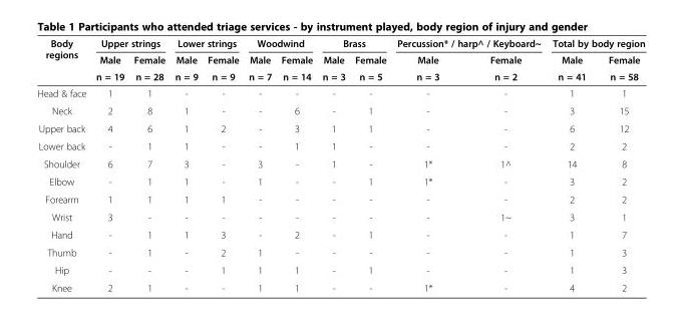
<table><thead><tr><td rowspan="3">Body regions</td><td colspan="2">Upper strings</td><td colspan="2">Lower strings</td><td colspan="2">Woodwind</td><td colspan="2">Brass</td><td colspan="2">Percussion* / harp^ / Keyboard~</td><td colspan="2">Total by body region</td></tr><tr><td rowspan="2">Male n = 19</td><td rowspan="2">Female n = 28</td><td rowspan="2">Male n = 9</td><td rowspan="2">Female n = 9</td><td rowspan="2">Male n = 7</td><td rowspan="2">Female n = 14</td><td rowspan="2">Male n = 3</td><td rowspan="2">Female n = 5</td><td rowspan="2">Male n = 3</td><td rowspan="2">Female n = 2</td><td rowspan="2">Male n = 41</td><td rowspan="2">Female n = 58</td></tr><tr></tr></thead><tbody><tr><td>Head &amp; face</td><td>1</td><td>1</td><td>-</td><td>-</td><td>-</td><td>-</td><td>-</td><td>-</td><td>-</td><td>-</td><td>1</td><td>1</td></tr><tr><td>Neck</td><td>2</td><td>8</td><td>1</td><td>-</td><td>-</td><td>6</td><td>-</td><td>1</td><td>-</td><td>-</td><td>3</td><td>15</td></tr><tr><td>Upper back</td><td>4</td><td>6</td><td>1</td><td>2</td><td>-</td><td>3</td><td>1</td><td>1</td><td>-</td><td>-</td><td>6</td><td>12</td></tr><tr><td>Lower back</td><td>-</td><td>1</td><td>1</td><td>-</td><td>-</td><td>1</td><td>1</td><td>-</td><td>-</td><td>-</td><td>2</td><td>2</td></tr><tr><td>Shoulder</td><td>6</td><td>7</td><td>3</td><td>-</td><td>3</td><td>-</td><td>1</td><td>-</td><td>1*</td><td>1^</td><td>14</td><td>8</td></tr><tr><td>Elbow</td><td>-</td><td>1</td><td>1</td><td>-</td><td>1</td><td>-</td><td>-</td><td>1</td><td>1*</td><td>-</td><td>3</td><td>2</td></tr><tr><td>Forearm</td><td>1</td><td>1</td><td>1</td><td>1</td><td>-</td><td>-</td><td>-</td><td>-</td><td>-</td><td>-</td><td>2</td><td>2</td></tr><tr><td>Wrist</td><td>3</td><td>-</td><td>-</td><td>-</td><td>-</td><td>-</td><td>-</td><td>-</td><td>-</td><td>1~</td><td>3</td><td>1</td></tr><tr><td>Hand</td><td>-</td><td>1</td><td>1</td><td>3</td><td>-</td><td>2</td><td>-</td><td>1</td><td>-</td><td>-</td><td>1</td><td>7</td></tr><tr><td>Thumb</td><td>-</td><td>1</td><td>-</td><td>2</td><td>1</td><td>-</td><td>-</td><td>-</td><td>-</td><td>-</td><td>1</td><td>3</td></tr><tr><td>Hip</td><td>-</td><td>-</td><td>-</td><td>1</td><td>1</td><td>1</td><td>-</td><td>1</td><td>-</td><td>-</td><td>1</td><td>3</td></tr><tr><td>Knee</td><td>2</td><td>1</td><td>-</td><td>-</td><td>1</td><td>1</td><td>-</td><td>-</td><td>1*</td><td>-</td><td>4</td><td>2</td></tr></tbody></table>